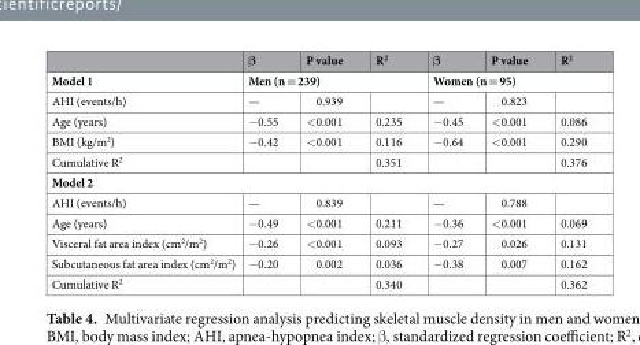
<table><thead><tr><td></td><td>β</td><td>P value</td><td>R<sup>2</sup></td><td>β</td><td>P value</td><td>R<sup>2</sup></td></tr></thead><tbody><tr><td>Model 1</td><td colspan="3">Men (n = 239)</td><td colspan="3">Women (n = 95)</td></tr><tr><td>AHI (events/h)</td><td>—</td><td>0.939</td><td></td><td>—</td><td>0.823</td><td></td></tr><tr><td>Age (years)</td><td>−0.55</td><td>&lt;0.001</td><td>0.235</td><td>−0.45</td><td>&lt;0.001</td><td>0.086</td></tr><tr><td>BMI (kg/m<sup>2</sup>)</td><td>−0.42</td><td>&lt;0.001</td><td>0.116</td><td>−0.64</td><td>&lt;0.001</td><td>0.290</td></tr><tr><td>Cumulative R<sup>2</sup></td><td></td><td></td><td>0.351</td><td></td><td></td><td>0.376</td></tr><tr><td colspan="7">Model 2</td></tr><tr><td>AHI (events/h)</td><td>—</td><td>0.839</td><td></td><td>—</td><td>0.788</td><td></td></tr><tr><td>Age (years)</td><td>−0.49</td><td>&lt;0.001</td><td>0.211</td><td>−0.36</td><td>&lt;0.001</td><td>0.069</td></tr><tr><td>Visceral fat area index (cm<sup>2</sup>/m<sup>2</sup>)</td><td>−0.26</td><td>&lt;0.001</td><td>0.093</td><td>−0.27</td><td>0.026</td><td>0.131</td></tr><tr><td>Subcutaneous fat area index (cm<sup>2</sup>/m<sup>2</sup>)</td><td>−0.20</td><td>0.002</td><td>0.036</td><td>−0.38</td><td>0.007</td><td>0.162</td></tr><tr><td>Cumulative R<sup>2</sup></td><td></td><td></td><td>0.340</td><td></td><td></td><td>0.362</td></tr></tbody></table>